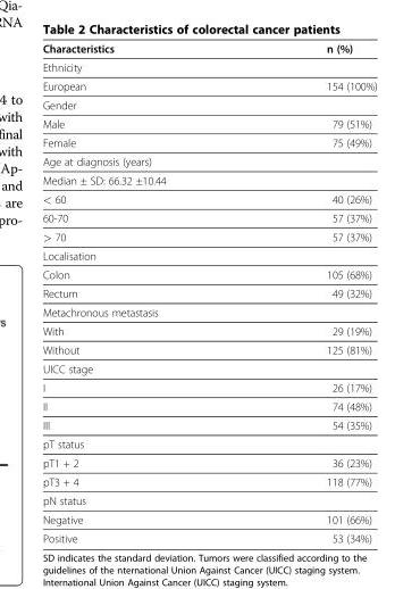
<table><thead><tr><td>Characteristics</td><td>n (%)</td></tr></thead><tbody><tr><td colspan="2">Ethnicity</td></tr><tr><td>European</td><td>154 (100%)</td></tr><tr><td colspan="2">Gender</td></tr><tr><td>Male</td><td>79 (51%)</td></tr><tr><td>Female</td><td>75 (49%)</td></tr><tr><td colspan="2">Age at diagnosis (years)</td></tr><tr><td colspan="2">Median ± SD: 66.32 ±10.44</td></tr><tr><td>&lt; 60</td><td>40 (26%)</td></tr><tr><td>60-70</td><td>57 (37%)</td></tr><tr><td>&gt; 70</td><td>57 (37%)</td></tr><tr><td colspan="2">Localisation</td></tr><tr><td>Colon</td><td>105 (68%)</td></tr><tr><td>Rectum</td><td>49 (32%)</td></tr><tr><td colspan="2">Metachronous metastasis</td></tr><tr><td>With</td><td>29 (19%)</td></tr><tr><td>Without</td><td>125 (81%)</td></tr><tr><td colspan="2">UICC stage</td></tr><tr><td>I</td><td>26 (17%)</td></tr><tr><td>II</td><td>74 (48%)</td></tr><tr><td>III</td><td>54 (35%)</td></tr><tr><td colspan="2">pT status</td></tr><tr><td>pT1 + 2</td><td>36 (23%)</td></tr><tr><td>pT3 + 4</td><td>118 (77%)</td></tr><tr><td colspan="2">pN status</td></tr><tr><td>Negative</td><td>101 (66%)</td></tr><tr><td>Positive</td><td>53 (34%)</td></tr></tbody></table>